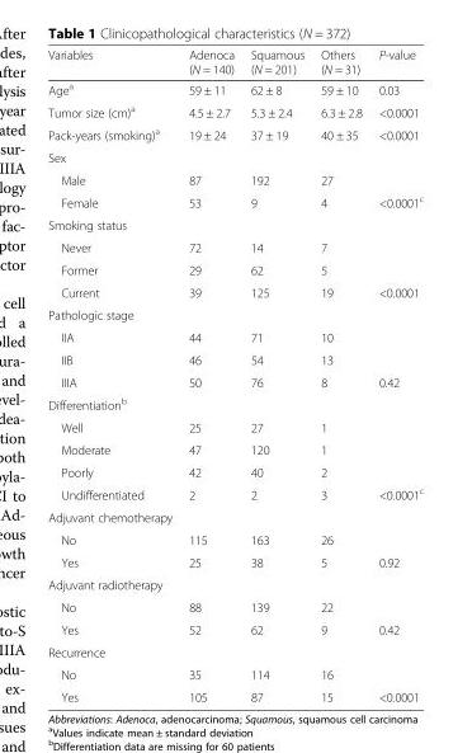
<table><thead><tr><td>Variables</td><td>Adenoca (N = 140)</td><td>Squamous (N = 201)</td><td>Others (N = 31)</td><td>P-value</td></tr></thead><tbody><tr><td>Age<sup>a</sup></td><td>59 ± 11</td><td>62 ± 8</td><td>59 ± 10</td><td>0.03</td></tr><tr><td>Tumor size (cm)<sup>a</sup></td><td>4.5 ± 2.7</td><td>5.3 ± 2.4</td><td>6.3 ± 2.8</td><td>&lt;0.0001</td></tr><tr><td>Pack-years (smoking)<sup>a</sup></td><td>19 ± 24</td><td>37 ± 19</td><td>40 ± 35</td><td>&lt;0.0001</td></tr><tr><td colspan="5">Sex</td></tr><tr><td>Male</td><td>87</td><td>192</td><td>27</td><td></td></tr><tr><td>Female</td><td>53</td><td>9</td><td>4</td><td>&lt;0.0001<sup>c</sup></td></tr><tr><td colspan="5">Smoking status</td></tr><tr><td>Never</td><td>72</td><td>14</td><td>7</td><td></td></tr><tr><td>Former</td><td>29</td><td>62</td><td>5</td><td></td></tr><tr><td>Current</td><td>39</td><td>125</td><td>19</td><td>&lt;0.0001</td></tr><tr><td colspan="5">Pathologic stage</td></tr><tr><td>IIA</td><td>44</td><td>71</td><td>10</td><td></td></tr><tr><td>IIB</td><td>46</td><td>54</td><td>13</td><td></td></tr><tr><td>IIIA</td><td>50</td><td>76</td><td>8</td><td>0.42</td></tr><tr><td colspan="5">Differentiation<sup>b</sup></td></tr><tr><td>Well</td><td>25</td><td>27</td><td>1</td><td></td></tr><tr><td>Moderate</td><td>47</td><td>120</td><td>1</td><td></td></tr><tr><td>Poorly</td><td>42</td><td>40</td><td>2</td><td></td></tr><tr><td>Undifferentiated</td><td>2</td><td>2</td><td>3</td><td>&lt;0.0001<sup>c</sup></td></tr><tr><td colspan="5">Adjuvant chemotherapy</td></tr><tr><td>No</td><td>115</td><td>163</td><td>26</td><td></td></tr><tr><td>Yes</td><td>25</td><td>38</td><td>5</td><td>0.92</td></tr><tr><td colspan="5">Adjuvant radiotherapy</td></tr><tr><td>No</td><td>88</td><td>139</td><td>22</td><td></td></tr><tr><td>Yes</td><td>52</td><td>62</td><td>9</td><td>0.42</td></tr><tr><td colspan="5">Recurrence</td></tr><tr><td>No</td><td>35</td><td>114</td><td>16</td><td></td></tr><tr><td>Yes</td><td>105</td><td>87</td><td>15</td><td>&lt;0.0001</td></tr></tbody></table>